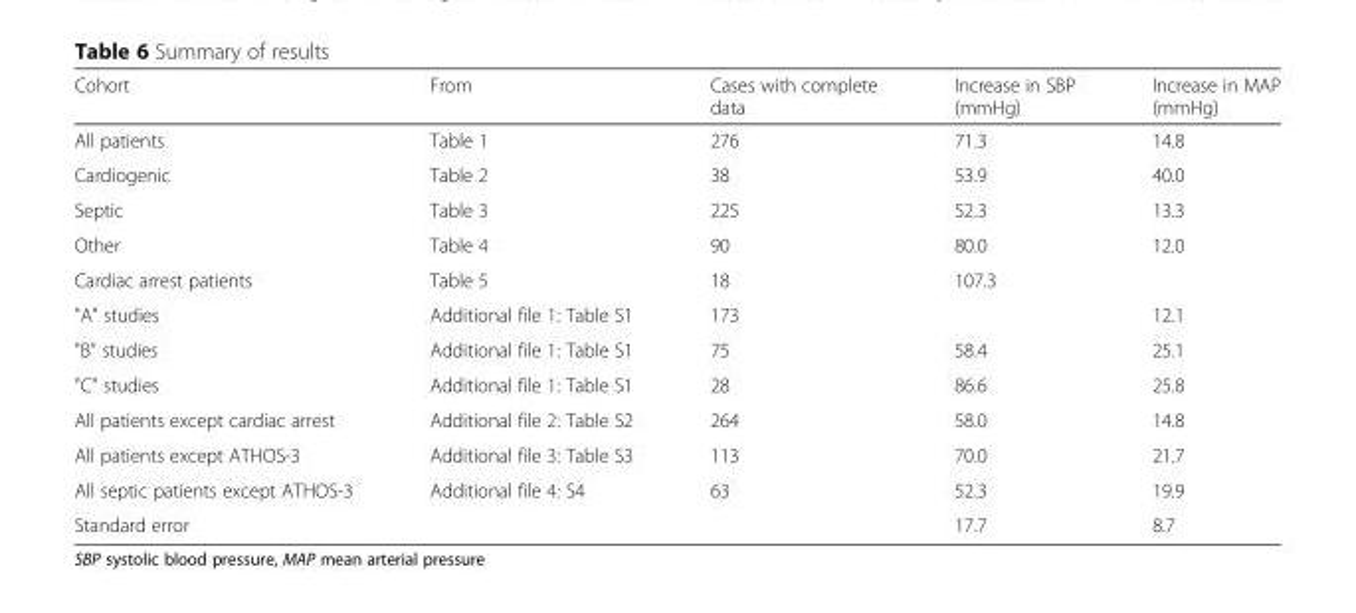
<table><thead><tr><td>Cohort</td><td>From</td><td>Cases with complete data</td><td>Increase in SBP (mmHg)</td><td>Increase in MAP (mmHg)</td></tr></thead><tbody><tr><td>All patients</td><td>Table 1</td><td>276</td><td>71.3</td><td>14.8</td></tr><tr><td>Cardiogenic</td><td>Table 2</td><td>38</td><td>53.9</td><td>40.0</td></tr><tr><td>Septic</td><td>Table 3</td><td>225</td><td>52.3</td><td>13.3</td></tr><tr><td>Other</td><td>Table 4</td><td>90</td><td>80.0</td><td>12.0</td></tr><tr><td>Cardiac arrest patients</td><td>Table 5</td><td>18</td><td>107.3</td><td></td></tr><tr><td>&quot;A&quot; studies</td><td>Additional file 1: Table S1</td><td>173</td><td></td><td>12.1</td></tr><tr><td>&quot;B&quot; studies</td><td>Additional file 1: Table S1</td><td>75</td><td>58.4</td><td>25.1</td></tr><tr><td>&quot;C&quot; studies</td><td>Additional file 1: Table S1</td><td>28</td><td>86.6</td><td>25.8</td></tr><tr><td>All patients except cardiac arrest</td><td>Additional file 2: Table S2</td><td>264</td><td>58.0</td><td>14.8</td></tr><tr><td>All patients except ATHOS-3</td><td>Additional file 3: Table S3</td><td>113</td><td>70.0</td><td>21.7</td></tr><tr><td>All septic patients except ATHOS-3</td><td>Additional file 4: S4</td><td>63</td><td>52.3</td><td>19.9</td></tr><tr><td>Standard error</td><td></td><td></td><td>17.7</td><td>8.7</td></tr></tbody></table>